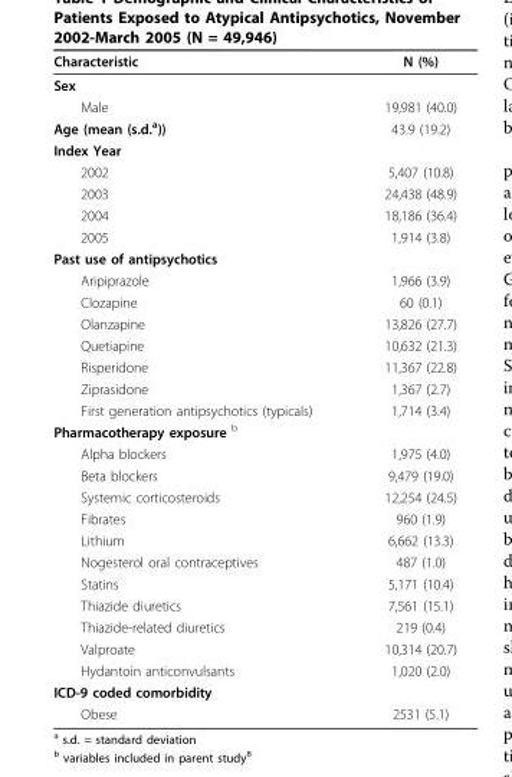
<table><thead><tr><td>Characteristic</td><td>N (%)</td></tr></thead><tbody><tr><td colspan="2">Sex</td></tr><tr><td>Male</td><td>19,981 (40.0)</td></tr><tr><td>Age (mean (s.d.<sup>a</sup>))</td><td>43.9 (19.2)</td></tr><tr><td colspan="2">Index Year</td></tr><tr><td>2002</td><td>5,407 (10.8)</td></tr><tr><td>2003</td><td>24,438 (48.9)</td></tr><tr><td>2004</td><td>18,186 (36.4)</td></tr><tr><td>2005</td><td>1,914 (3.8)</td></tr><tr><td colspan="2">Past use of antipsychotics</td></tr><tr><td>Aripiprazole</td><td>1,966 (3.9)</td></tr><tr><td>Clozapine</td><td>60 (0.1)</td></tr><tr><td>Olanzapine</td><td>13,826 (27.7)</td></tr><tr><td>Quetiapine</td><td>10,632 (21.3)</td></tr><tr><td>Risperidone</td><td>11,367 (22.8)</td></tr><tr><td>Ziprasidone</td><td>1,367 (2.7)</td></tr><tr><td>First generation antipsychotics (typicals)</td><td>1,714 (3.4)</td></tr><tr><td colspan="2">Pharmacotherapy exposure <sup>b</sup></td></tr><tr><td>Alpha blockers</td><td>1,975 (4.0)</td></tr><tr><td>Beta blockers</td><td>9,479 (19.0)</td></tr><tr><td>Systemic corticosteroids</td><td>12,254 (24.5)</td></tr><tr><td>Fibrates</td><td>960 (1.9)</td></tr><tr><td>Lithium</td><td>6,662 (13.3)</td></tr><tr><td>Nogesterol oral contraceptives</td><td>487 (1.0)</td></tr><tr><td>Statins</td><td>5,171 (10.4)</td></tr><tr><td>Thiazide diuretics</td><td>7,561 (15.1)</td></tr><tr><td>Thiazide-related diuretics</td><td>219 (0.4)</td></tr><tr><td>Valproate</td><td>10,314 (20.7)</td></tr><tr><td>Hydantoin anticonvulsants</td><td>1,020 (2.0)</td></tr><tr><td colspan="2">ICD-9 coded comorbidity</td></tr><tr><td>Obese</td><td>2531 (5.1)</td></tr></tbody></table>